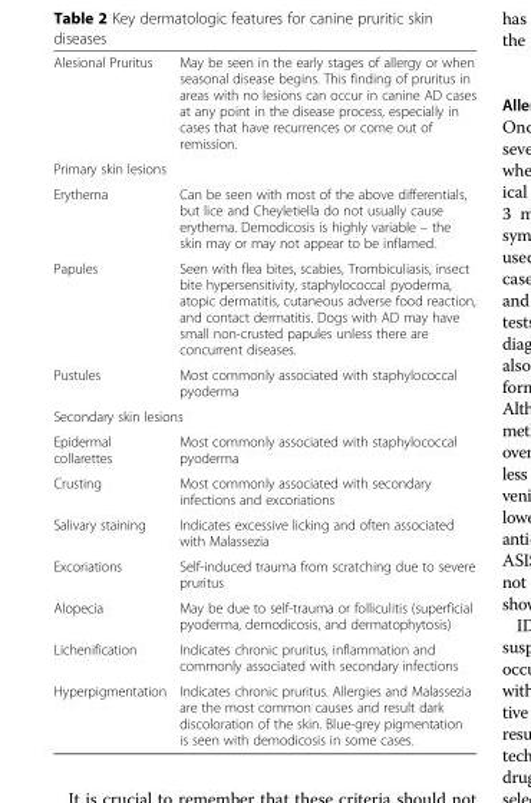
<table><tbody><tr><td>Alesional Pruritus</td><td>May be seen in the early stages of allergy or when seasonal disease begins. This finding of pruritus in areas with no lesions can occur in canine AD cases at any point in the disease process, especially in cases that have recurrences or come out of remission.</td></tr><tr><td colspan="2">Primary skin lesions</td></tr><tr><td>Erythema</td><td>Can be seen with most of the above differentials, but lice and Cheyletiella do not usually cause erythema. Demodicosis is highly variable – the skin may or may not appear to be inflamed.</td></tr><tr><td>Papules</td><td>Seen with flea bites, scabies, Trombiculiasis, insect bite hypersensitivity, staphylococcal pyoderma, atopic dermatitis, cutaneous adverse food reaction, and contact dermatitis. Dogs with AD may have small non-crusted papules unless there are concurrent diseases.</td></tr><tr><td>Pustules</td><td>Most commonly associated with staphylococcal pyoderma</td></tr><tr><td colspan="2">Secondary skin lesions</td></tr><tr><td>Epidermal collarettes</td><td>Most commonly associated with staphylococcal pyoderma</td></tr><tr><td>Crusting</td><td>Most commonly associated with secondary infections and excoriations</td></tr><tr><td>Salivary staining</td><td>Indicates excessive licking and often associated with Malassezia</td></tr><tr><td>Excoriations</td><td>Self-induced trauma from scratching due to severe pruritus</td></tr><tr><td>Alopecia</td><td>May be due to self-trauma or folliculitis (superficial pyoderma, demodicosis, and dermatophytosis)</td></tr><tr><td>Lichenification</td><td>Indicates chronic pruritus, inflammation and commonly associated with secondary infections</td></tr><tr><td>Hyperpigmentation</td><td>Indicates chronic pruritus. Allergies and Malassezia are the most common causes and result dark discoloration of the skin. Blue-grey pigmentation is seen with demodicosis in some cases.</td></tr></tbody></table>